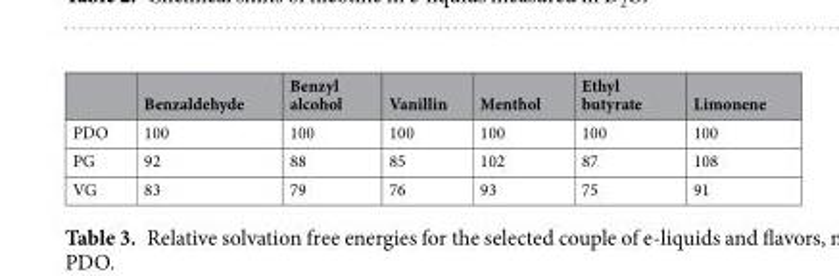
<table><thead><tr><td></td><td>Benzaldehyde</td><td>Benzyl alcohol</td><td>Vanillin</td><td>Menthol</td><td>Ethyl butyrate</td><td>Limonene</td></tr></thead><tbody><tr><td>PDO</td><td>100</td><td>100</td><td>100</td><td>100</td><td>100</td><td>100</td></tr><tr><td>PG</td><td>92</td><td>88</td><td>85</td><td>102</td><td>87</td><td>108</td></tr><tr><td>VG</td><td>83</td><td>79</td><td>76</td><td>93</td><td>75</td><td>91</td></tr></tbody></table>